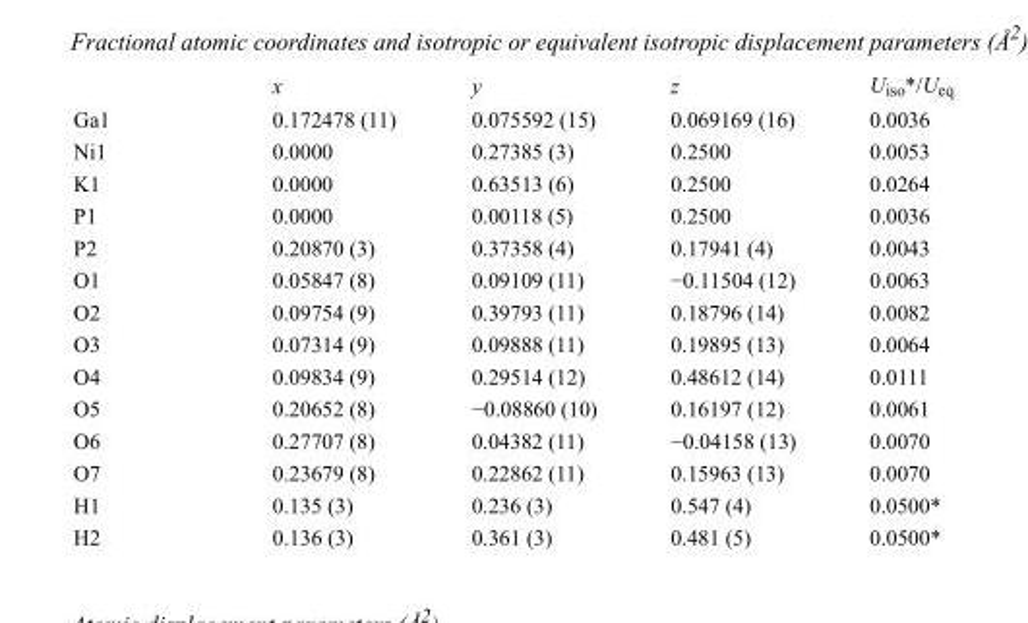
<table><thead><tr><td></td><td>x</td><td>y</td><td>z</td><td>U<sub>iso</sub>*/U<sub>eq</sub></td></tr></thead><tbody><tr><td>Ga1</td><td>0.172478 (11)</td><td>0.075592 (15)</td><td>0.069169 (16)</td><td>0.0036</td></tr><tr><td>Ni1</td><td>0.0000</td><td>0.27385 (3)</td><td>0.2500</td><td>0.0053</td></tr><tr><td>K1</td><td>0.0000</td><td>0.63513 (6)</td><td>0.2500</td><td>0.0264</td></tr><tr><td>P1</td><td>0.0000</td><td>0.00118 (5)</td><td>0.2500</td><td>0.0036</td></tr><tr><td>P2</td><td>0.20870 (3)</td><td>0.37358 (4)</td><td>0.17941 (4)</td><td>0.0043</td></tr><tr><td>O1</td><td>0.05847 (8)</td><td>0.09109 (11)</td><td>−0.11504 (12)</td><td>0.0063</td></tr><tr><td>O2</td><td>0.09754 (9)</td><td>0.39793 (11)</td><td>0.18796 (14)</td><td>0.0082</td></tr><tr><td>O3</td><td>0.07314 (9)</td><td>0.09888 (11)</td><td>0.19895 (13)</td><td>0.0064</td></tr><tr><td>O4</td><td>0.09834 (9)</td><td>0.29514 (12)</td><td>0.48612 (14)</td><td>0.0111</td></tr><tr><td>O5</td><td>0.20652 (8)</td><td>−0.08860 (10)</td><td>0.16197 (12)</td><td>0.0061</td></tr><tr><td>O6</td><td>0.27707 (8)</td><td>0.04382 (11)</td><td>−0.04158 (13)</td><td>0.0070</td></tr><tr><td>O7</td><td>0.23679 (8)</td><td>0.22862 (11)</td><td>0.15963 (13)</td><td>0.0070</td></tr><tr><td>H1</td><td>0.135 (3)</td><td>0.236 (3)</td><td>0.547 (4)</td><td>0.0500*</td></tr><tr><td>H2</td><td>0.136 (3)</td><td>0.361 (3)</td><td>0.481 (5)</td><td>0.0500*</td></tr></tbody></table>